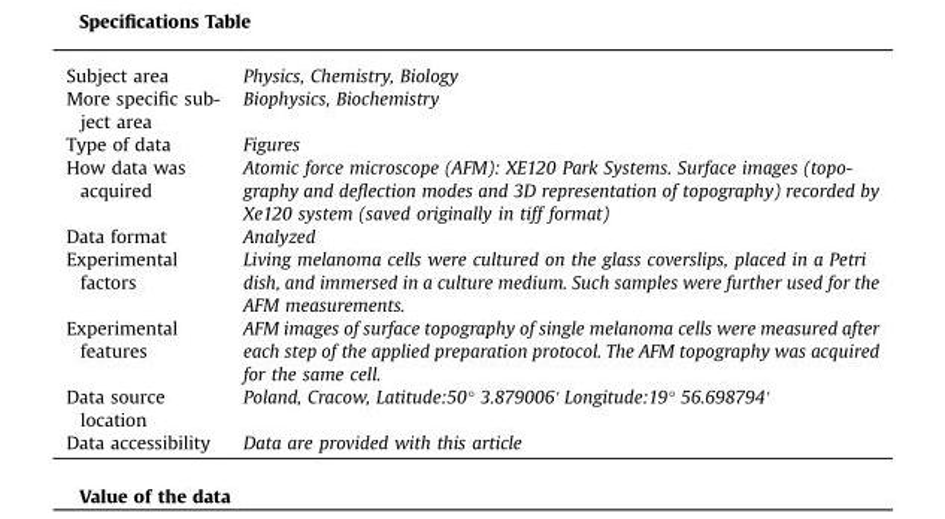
<table><tbody><tr><td>Subject area</td><td>Physics, Chemistry, Biology</td></tr><tr><td>More specific sub- ject area</td><td>Biophysics, Biochemistry</td></tr><tr><td>Type of data</td><td>Figures</td></tr><tr><td>How data was acquired</td><td>Atomic force microscope (AFM): XE120 Park Systems. Surface images (topo- graphy and deflection modes and 3D representation of topography) recorded by Xe120 system (saved originally in tiff format)</td></tr><tr><td>Data format</td><td>Analyzed</td></tr><tr><td>Experimental factors</td><td>Living melanoma cells were cultured on the glass coverslips, placed in a Petri dish, and immersed in a culture medium. Such samples were further used for the AFM measurements.</td></tr><tr><td>Experimental features</td><td>AFM images of surface topography of single melanoma cells were measured after each step of the applied preparation protocol. The AFM topography was acquired for the same cell.</td></tr><tr><td>Data source location</td><td>Poland, Cracow, Latitude:50° 3.879006&#x27; Longitude:19° 56.698794&#x27;</td></tr><tr><td>Data accessibility</td><td>Data are provided with this article</td></tr></tbody></table>